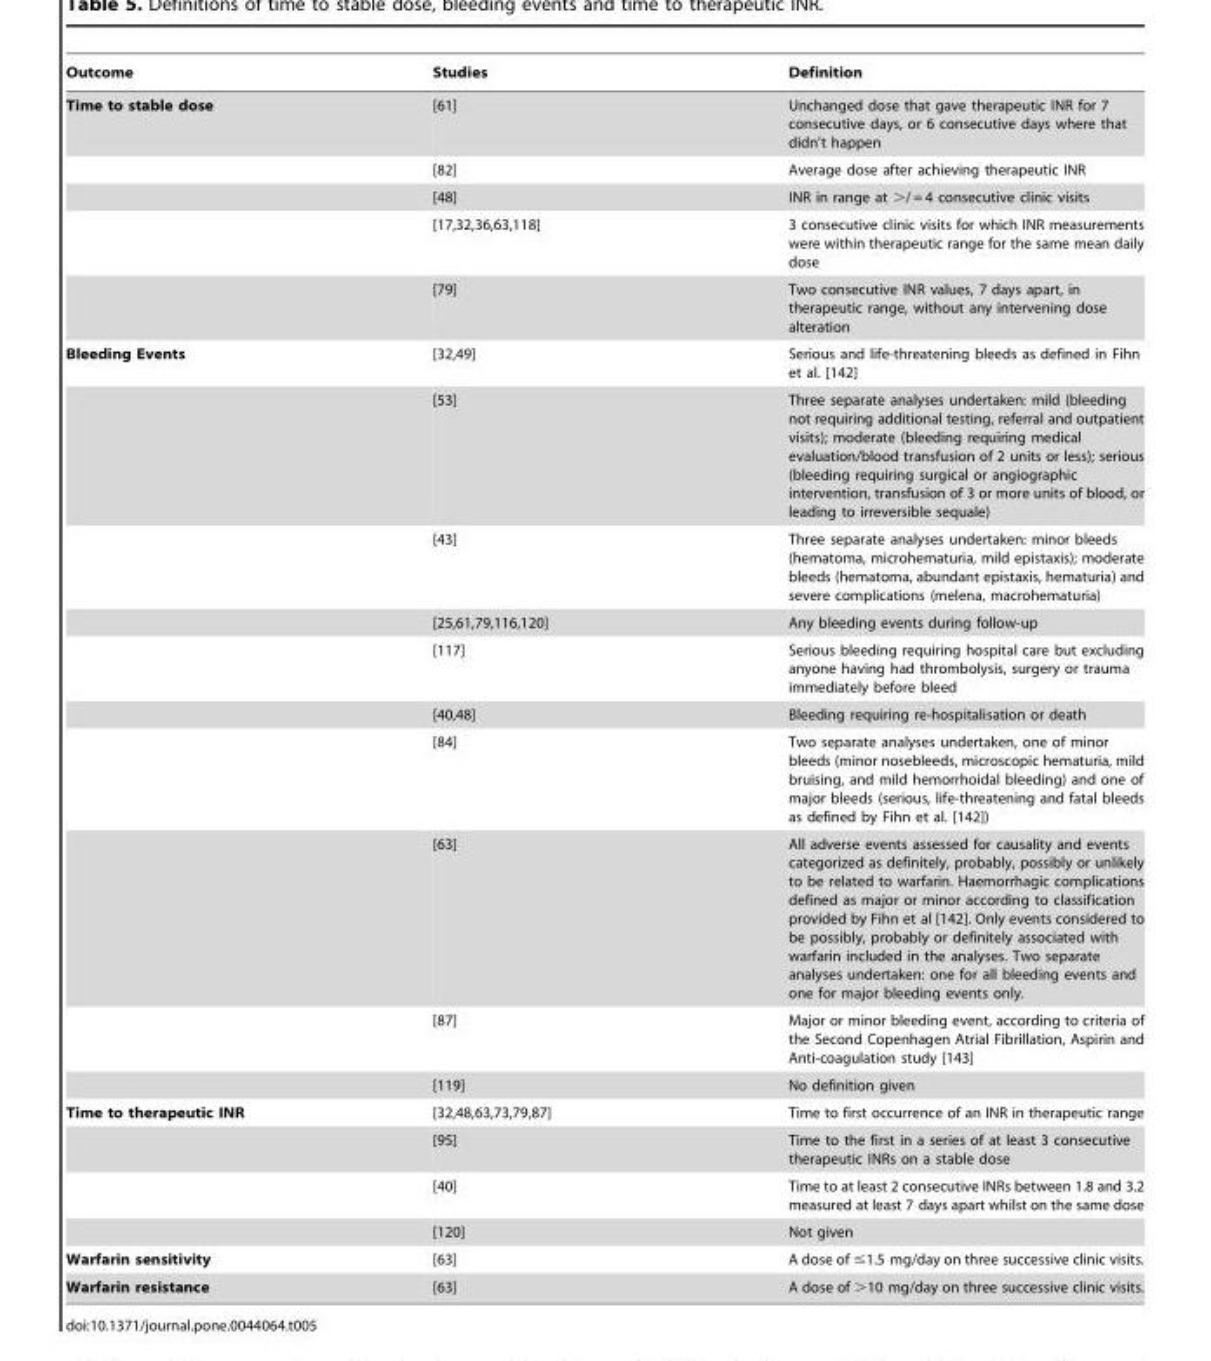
<table><thead><tr><td>Outcome</td><td>Studies</td><td>Definition</td></tr></thead><tbody><tr><td rowspan="5">Time to stable dose</td><td>[61]</td><td>Unchanged dose that gave therapeutic INR for 7 consecutive days, or 6 consecutive days where that didn’t happen</td></tr><tr><td>[82]</td><td>Average dose after achieving therapeutic INR</td></tr><tr><td>[48]</td><td>INR in range at &gt;/ = 4 consecutive clinic visits</td></tr><tr><td>[17,32,36,63,118]</td><td>3 consecutive clinic visits for which INR measurements were within therapeutic range for the same mean daily dose</td></tr><tr><td>[79]</td><td>Two consecutive INR values, 7 days apart, in therapeutic range, without any intervening dose alteration</td></tr><tr><td rowspan="10">Bleeding Events</td><td>[32,49]</td><td>Serious and life-threatening bleeds as defined in Fihn et al. [142]</td></tr><tr><td>[53]</td><td>Three separate analyses undertaken: mild (bleeding not requiring additional testing, referral and outpatient visits); moderate (bleeding requiring medical evaluation/blood transfusion of 2 units or less); serious (bleeding requiring surgical or angiographic intervention, transfusion of 3 or more units of blood, or leading to irreversible sequale)</td></tr><tr><td>[43]</td><td>Three separate analyses undertaken: minor bleeds (hematoma, microhematuria, mild epistaxis); moderate bleeds (hematoma, abundant epistaxis, hematuria) and severe complications (melena, macrohematuria)</td></tr><tr><td>[25,61,79,116,120]</td><td>Any bleeding events during follow-up</td></tr><tr><td>[117]</td><td>Serious bleeding requiring hospital care but excluding anyone having had thrombolysis, surgery or trauma immediately before bleed</td></tr><tr><td>[40,48]</td><td>Bleeding requiring re-hospitalisation or death</td></tr><tr><td>[84]</td><td>Two separate analyses undertaken, one of minor bleeds (minor nosebleeds, microscopic hematuria, mild bruising, and mild hemorrhoidal bleeding) and one of major bleeds (serious, life-threatening and fatal bleeds as defined by Fihn et al. [142])</td></tr><tr><td>[63]</td><td>All adverse events assessed for causality and events categorized as definitely, probably, possibly or unlikely to be related to warfarin. Haemorrhagic complications defined as major or minor according to classification provided by Fihn et al [142]. Only events considered to be possibly, probably or definitely associated with warfarin included in the analyses. Two separate analyses undertaken: one for all bleeding events and one for major bleeding events only.</td></tr><tr><td>[87]</td><td>Major or minor bleeding event, according to criteria of the Second Copenhagen Atrial Fibrillation, Aspirin and Anti-coagulation study [143]</td></tr><tr><td>[119]</td><td>No definition given</td></tr><tr><td rowspan="4">Time to therapeutic INR</td><td>[32,48,63,73,79,87]</td><td>Time to first occurrence of an INR in therapeutic range</td></tr><tr><td>[95]</td><td>Time to the first in a series of at least 3 consecutive therapeutic INRs on a stable dose</td></tr><tr><td>[40]</td><td>Time to at least 2 consecutive INRs between 1.8 and 3.2 measured at least 7 days apart whilst on the same dose</td></tr><tr><td>[120]</td><td>Not given</td></tr><tr><td>Warfarin sensitivity</td><td>[63]</td><td>A dose of ≤1.5 mg/day on three successive clinic visits.</td></tr><tr><td>Warfarin resistance</td><td>[63]</td><td>A dose of &gt;10 mg/day on three successive clinic visits.</td></tr></tbody></table>